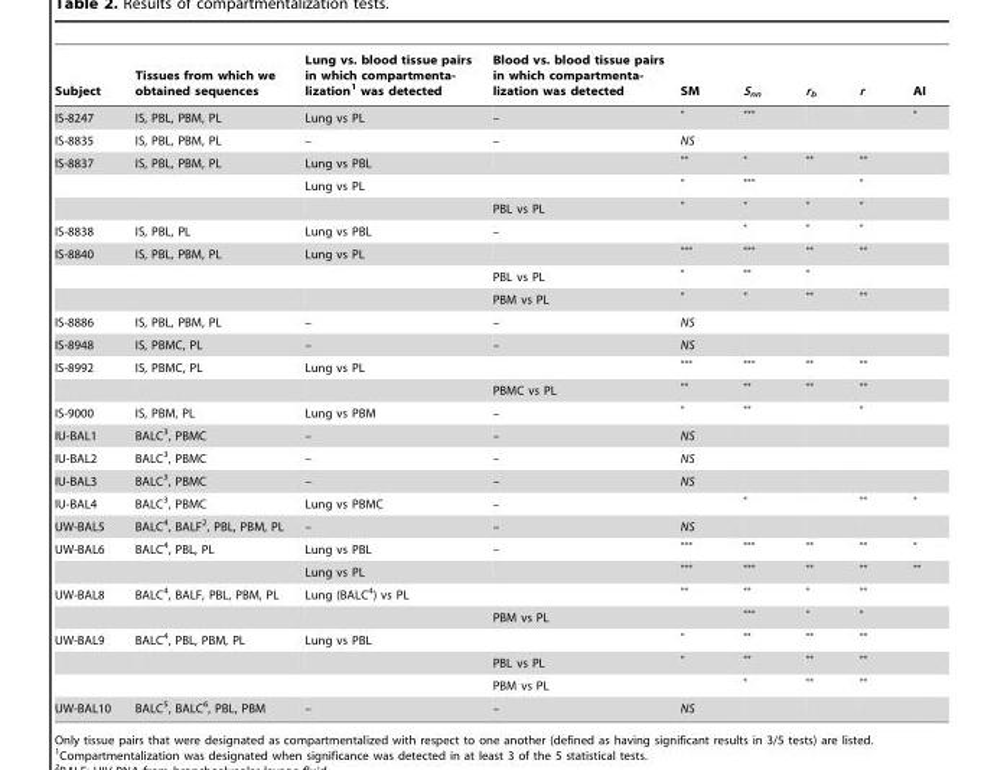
<table><thead><tr><td>Subject</td><td>Tissues from which we obtained sequences</td><td>Lung vs. blood tissue pairs in which compartmenta- lization1 was detected</td><td>Blood vs. blood tissue pairs in which compartmenta- lization was detected</td><td>SM</td><td>S<sub>nn</sub></td><td>r<sub>b</sub></td><td>r</td><td>AI</td></tr></thead><tbody><tr><td>IS-8247</td><td>IS, PBL, PBM, PL</td><td>Lung vs PL</td><td>–</td><td>*</td><td>***</td><td></td><td></td><td>*</td></tr><tr><td>IS-8835</td><td>IS, PBL, PBM, PL</td><td>–</td><td>–</td><td>NS</td><td></td><td></td><td></td><td></td></tr><tr><td rowspan="3">IS-8837</td><td>IS, PBL, PBM, PL</td><td>Lung vs PBL</td><td></td><td>**</td><td>*</td><td>**</td><td>**</td><td></td></tr><tr><td></td><td>Lung vs PL</td><td></td><td>*</td><td>***</td><td></td><td>*</td><td></td></tr><tr><td></td><td></td><td>PBL vs PL</td><td>*</td><td>*</td><td>*</td><td>*</td><td></td></tr><tr><td>IS-8838</td><td>IS, PBL, PL</td><td>Lung vs PBL</td><td>–</td><td></td><td>*</td><td>*</td><td>*</td><td></td></tr><tr><td rowspan="3">IS-8840</td><td>IS, PBL, PBM, PL</td><td>Lung vs PL</td><td></td><td>***</td><td>***</td><td>**</td><td>**</td><td></td></tr><tr><td></td><td></td><td>PBL vs PL</td><td>*</td><td>**</td><td>*</td><td></td><td></td></tr><tr><td></td><td></td><td>PBM vs PL</td><td>*</td><td>*</td><td>**</td><td>**</td><td></td></tr><tr><td>IS-8886</td><td>IS, PBL, PBM, PL</td><td>–</td><td>–</td><td>NS</td><td></td><td></td><td></td><td></td></tr><tr><td>IS-8948</td><td>IS, PBMC, PL</td><td>–</td><td>–</td><td>NS</td><td></td><td></td><td></td><td></td></tr><tr><td rowspan="2">IS-8992</td><td>IS, PBMC, PL</td><td>Lung vs PL</td><td></td><td>***</td><td>***</td><td>**</td><td>**</td><td></td></tr><tr><td></td><td></td><td>PBMC vs PL</td><td>**</td><td>**</td><td>**</td><td>**</td><td></td></tr><tr><td>IS-9000</td><td>IS, PBM, PL</td><td>Lung vs PBM</td><td>–</td><td>*</td><td>**</td><td></td><td>*</td><td></td></tr><tr><td>IU-BAL1</td><td>BALC<sup>3</sup>, PBMC</td><td>–</td><td>–</td><td>NS</td><td></td><td></td><td></td><td></td></tr><tr><td>IU-BAL2</td><td>BALC<sup>3</sup>, PBMC</td><td>–</td><td>–</td><td>NS</td><td></td><td></td><td></td><td></td></tr><tr><td>IU-BAL3</td><td>BALC<sup>3</sup>, PBMC</td><td>–</td><td>–</td><td>NS</td><td></td><td></td><td></td><td></td></tr><tr><td>IU-BAL4</td><td>BALC<sup>3</sup>, PBMC</td><td>Lung vs PBMC</td><td>–</td><td></td><td>*</td><td></td><td>**</td><td>*</td></tr><tr><td>UW-BAL5</td><td>BALC<sup>4</sup>, BALF<sup>2</sup>, PBL, PBM, PL</td><td>–</td><td>–</td><td>NS</td><td></td><td></td><td></td><td></td></tr><tr><td rowspan="2">UW-BAL6</td><td>BALC<sup>4</sup>, PBL, PL</td><td>Lung vs PBL</td><td>–</td><td>***</td><td>***</td><td>**</td><td>**</td><td>*</td></tr><tr><td></td><td>Lung vs PL</td><td></td><td>***</td><td>***</td><td>**</td><td>**</td><td>**</td></tr><tr><td rowspan="2">UW-BAL8</td><td>BALC<sup>4</sup>, BALF, PBL, PBM, PL</td><td>Lung (BALC<sup>4</sup>) vs PL</td><td></td><td>**</td><td>**</td><td>*</td><td>**</td><td></td></tr><tr><td></td><td></td><td>PBM vs PL</td><td></td><td>***</td><td>*</td><td>*</td><td></td></tr><tr><td rowspan="3">UW-BAL9</td><td>BALC<sup>4</sup>, PBL, PBM, PL</td><td>Lung vs PBL</td><td></td><td>*</td><td>**</td><td>**</td><td>**</td><td></td></tr><tr><td></td><td></td><td>PBL vs PL</td><td>*</td><td>**</td><td>**</td><td>**</td><td></td></tr><tr><td></td><td></td><td>PBM vs PL</td><td></td><td>*</td><td>**</td><td>**</td><td></td></tr><tr><td>UW-BAL10</td><td>BALC<sup>5</sup>, BALC<sup>6</sup>, PBL, PBM</td><td>–</td><td>–</td><td>NS</td><td></td><td></td><td></td><td></td></tr></tbody></table>